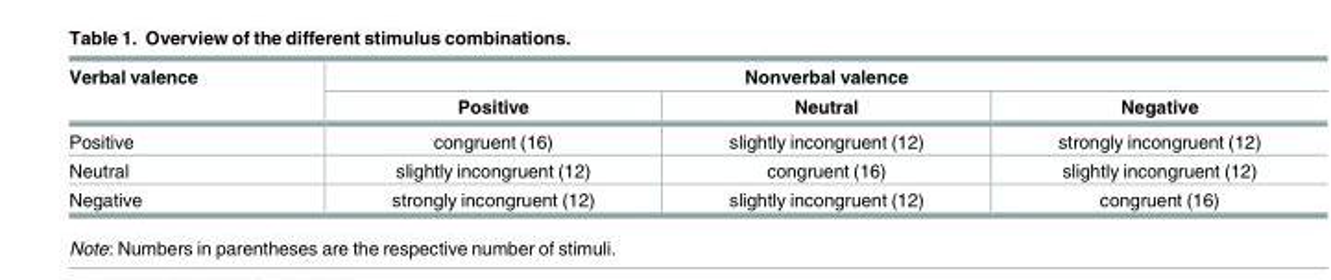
<table><thead><tr><td rowspan="2">Verbal valence</td><td colspan="3">Nonverbal valence</td></tr><tr><td>Positive</td><td>Neutral</td><td>Negative</td></tr></thead><tbody><tr><td>Positive</td><td>congruent (16)</td><td>slightly incongruent (12)</td><td>strongly incongruent (12)</td></tr><tr><td>Neutral</td><td>slightly incongruent (12)</td><td>congruent (16)</td><td>slightly incongruent (12)</td></tr><tr><td>Negative</td><td>strongly incongruent (12)</td><td>slightly incongruent (12)</td><td>congruent (16)</td></tr></tbody></table>